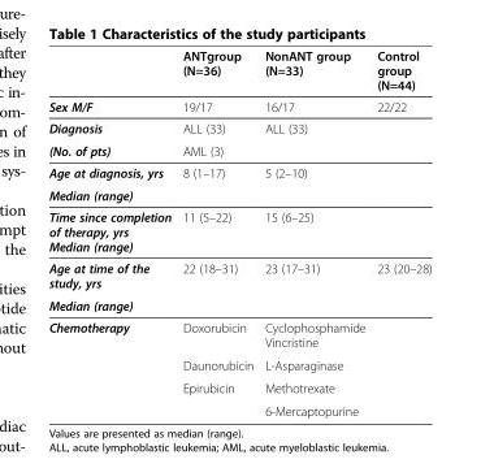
<table><thead><tr><td></td><td>ANTgroup (N=36)</td><td>NonANT group (N=33)</td><td>Control group (N=44)</td></tr></thead><tbody><tr><td>Sex M/F</td><td>19/17</td><td>16/17</td><td>22/22</td></tr><tr><td>Diagnosis</td><td>ALL (33)</td><td>ALL (33)</td><td></td></tr><tr><td>(No. of pts)</td><td>AML (3)</td><td></td><td></td></tr><tr><td>Age at diagnosis, yrs</td><td>8 (1–17)</td><td>5 (2–10)</td><td></td></tr><tr><td colspan="4">Median (range)</td></tr><tr><td>Time since completion of therapy, yrs Median (range)</td><td>11 (5–22)</td><td>15 (6–25)</td><td></td></tr><tr><td>Age at time of the study, yrs</td><td>22 (18–31)</td><td>23 (17–31)</td><td>23 (20–28)</td></tr><tr><td colspan="4">Median (range)</td></tr><tr><td rowspan="4">Chemotherapy</td><td>Doxorubicin</td><td>Cyclophosphamide Vincristine</td><td></td></tr><tr><td>Daunorubicin</td><td>L-Asparaginase</td><td></td></tr><tr><td>Epirubicin</td><td>Methotrexate</td><td></td></tr><tr><td></td><td>6-Mercaptopurine</td><td></td></tr></tbody></table>